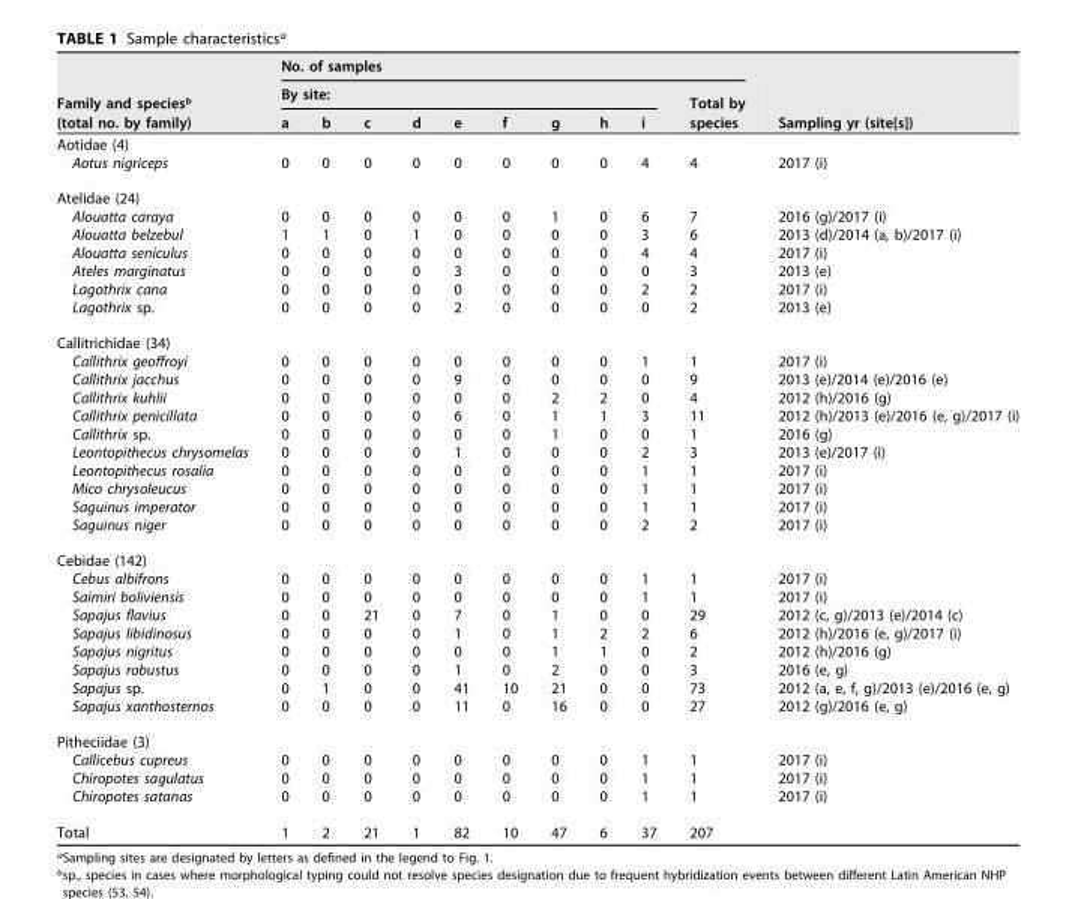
<table><thead><tr><td rowspan="3">Family and species<sup>b</sup> (total no. by family)</td><td colspan="10">No. of samples</td><td rowspan="3">Sampling yr (site[s])</td></tr><tr><td colspan="9">By site:</td><td rowspan="2">Total by species</td></tr><tr><td>a</td><td>b</td><td>c</td><td>d</td><td>e</td><td>f</td><td>g</td><td>h</td><td>i</td></tr></thead><tbody><tr><td colspan="12">Aotidae (4)</td></tr><tr><td>Aotus nigriceps</td><td>0</td><td>0</td><td>0</td><td>0</td><td>0</td><td>0</td><td>0</td><td>0</td><td>4</td><td>4</td><td>2017 (i)</td></tr><tr><td colspan="12">Atelidae (24)</td></tr><tr><td>Alouatta caraya</td><td>0</td><td>0</td><td>0</td><td>0</td><td>0</td><td>0</td><td>1</td><td>0</td><td>6</td><td>7</td><td>2016 (g)/2017 (i)</td></tr><tr><td>Alouatta belzebul</td><td>1</td><td>1</td><td>0</td><td>1</td><td>0</td><td>0</td><td>0</td><td>0</td><td>3</td><td>6</td><td>2013 (d)/2014 (a, b)/2017 (i)</td></tr><tr><td>Alouatta seniculus</td><td>0</td><td>0</td><td>0</td><td>0</td><td>0</td><td>0</td><td>0</td><td>0</td><td>4</td><td>4</td><td>2017 (i)</td></tr><tr><td>Ateles marginatus</td><td>0</td><td>0</td><td>0</td><td>0</td><td>3</td><td>0</td><td>0</td><td>0</td><td>0</td><td>3</td><td>2013 (e)</td></tr><tr><td>Lagothrix cana</td><td>0</td><td>0</td><td>0</td><td>0</td><td>0</td><td>0</td><td>0</td><td>0</td><td>2</td><td>2</td><td>2017 (i)</td></tr><tr><td>Lagothrix sp.</td><td>0</td><td>0</td><td>0</td><td>0</td><td>2</td><td>0</td><td>0</td><td>0</td><td>0</td><td>2</td><td>2013 (e)</td></tr><tr><td colspan="12">Callitrichidae (34)</td></tr><tr><td>Callithrix geoffroyi</td><td>0</td><td>0</td><td>0</td><td>0</td><td>0</td><td>0</td><td>0</td><td>0</td><td>1</td><td>1</td><td>2017 (i)</td></tr><tr><td>Callithrix jacchus</td><td>0</td><td>0</td><td>0</td><td>0</td><td>9</td><td>0</td><td>0</td><td>0</td><td>0</td><td>9</td><td>2013 (e)/2014 (e)/2016 (e)</td></tr><tr><td>Callithrix kuhlii</td><td>0</td><td>0</td><td>0</td><td>0</td><td>0</td><td>0</td><td>2</td><td>2</td><td>0</td><td>4</td><td>2012 (h)/2016 (g)</td></tr><tr><td>Callithrix penicillata</td><td>0</td><td>0</td><td>0</td><td>0</td><td>6</td><td>0</td><td>1</td><td>1</td><td>3</td><td>11</td><td>2012 (h)/2013 (e)/2016 (e, g)/2017 (i)</td></tr><tr><td>Callithrix sp.</td><td>0</td><td>0</td><td>0</td><td>0</td><td>0</td><td>0</td><td>1</td><td>0</td><td>0</td><td>1</td><td>2016 (g)</td></tr><tr><td>Leontopithecus chrysomelas</td><td>0</td><td>0</td><td>0</td><td>0</td><td>1</td><td>0</td><td>0</td><td>0</td><td>2</td><td>3</td><td>2013 (e)/2017 (i)</td></tr><tr><td>Leontopithecus rosalia</td><td>0</td><td>0</td><td>0</td><td>0</td><td>0</td><td>0</td><td>0</td><td>0</td><td>1</td><td>1</td><td>2017 (i)</td></tr><tr><td>Mico chrysoleucus</td><td>0</td><td>0</td><td>0</td><td>0</td><td>0</td><td>0</td><td>0</td><td>0</td><td>1</td><td>1</td><td>2017 (i)</td></tr><tr><td>Saguinus imperator</td><td>0</td><td>0</td><td>0</td><td>0</td><td>0</td><td>0</td><td>0</td><td>0</td><td>1</td><td>1</td><td>2017 (i)</td></tr><tr><td>Saguinus niger</td><td>0</td><td>0</td><td>0</td><td>0</td><td>0</td><td>0</td><td>0</td><td>0</td><td>2</td><td>2</td><td>2017 (i)</td></tr><tr><td colspan="12">Cebidae (142)</td></tr><tr><td>Cebus albifrons</td><td>0</td><td>0</td><td>0</td><td>0</td><td>0</td><td>0</td><td>0</td><td>0</td><td>1</td><td>1</td><td>2017 (i)</td></tr><tr><td>Saimiri boliviensis</td><td>0</td><td>0</td><td>0</td><td>0</td><td>0</td><td>0</td><td>0</td><td>0</td><td>1</td><td>1</td><td>2017 (i)</td></tr><tr><td>Sapajus flavius</td><td>0</td><td>0</td><td>21</td><td>0</td><td>7</td><td>0</td><td>1</td><td>0</td><td>0</td><td>29</td><td>2012 (c, g)/2013 (e)/2014 (c)</td></tr><tr><td>Sapajus libidinosus</td><td>0</td><td>0</td><td>0</td><td>0</td><td>1</td><td>0</td><td>1</td><td>2</td><td>2</td><td>6</td><td>2012 (h)/2016 (e, g)/2017 (i)</td></tr><tr><td>Sapajus nigritus</td><td>0</td><td>0</td><td>0</td><td>0</td><td>0</td><td>0</td><td>1</td><td>1</td><td>0</td><td>2</td><td>2012 (h)/2016 (g)</td></tr><tr><td>Sapajus robustus</td><td>0</td><td>0</td><td>0</td><td>0</td><td>1</td><td>0</td><td>2</td><td>0</td><td>0</td><td>3</td><td>2016 (e, g)</td></tr><tr><td>Sapajus sp.</td><td>0</td><td>1</td><td>0</td><td>0</td><td>41</td><td>10</td><td>21</td><td>0</td><td>0</td><td>73</td><td>2012 (a, e, f, g)/2013 (e)/2016 (e, g)</td></tr><tr><td>Sapajus xanthosternos</td><td>0</td><td>0</td><td>0</td><td>0</td><td>11</td><td>0</td><td>16</td><td>0</td><td>0</td><td>27</td><td>2012 (g)/2016 (e, g)</td></tr><tr><td colspan="12">Pitheciidae (3)</td></tr><tr><td>Callicebus cupreus</td><td>0</td><td>0</td><td>0</td><td>0</td><td>0</td><td>0</td><td>0</td><td>0</td><td>1</td><td>1</td><td>2017 (i)</td></tr><tr><td>Chiropotes sagulatus</td><td>0</td><td>0</td><td>0</td><td>0</td><td>0</td><td>0</td><td>0</td><td>0</td><td>1</td><td>1</td><td>2017 (i)</td></tr><tr><td>Chiropotes satanas</td><td>0</td><td>0</td><td>0</td><td>0</td><td>0</td><td>0</td><td>0</td><td>0</td><td>1</td><td>1</td><td>2017 (i)</td></tr><tr><td>Total</td><td>1</td><td>2</td><td>21</td><td>1</td><td>82</td><td>10</td><td>47</td><td>6</td><td>37</td><td>207</td><td></td></tr></tbody></table>